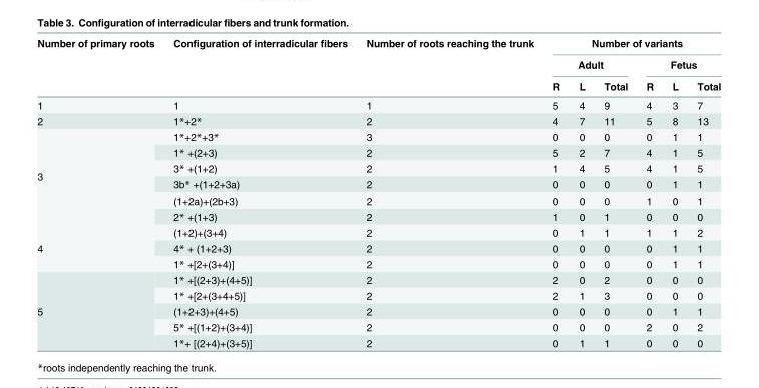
<table><thead><tr><td rowspan="3">Number of primary roots</td><td rowspan="3">Configuration of interradicular fibers</td><td rowspan="3">Number of roots reaching the trunk</td><td colspan="6">Number of variants</td></tr><tr><td colspan="3">Adult</td><td colspan="3">Fetus</td></tr><tr><td>R</td><td>L</td><td>Total</td><td>R</td><td>L</td><td>Total</td></tr></thead><tbody><tr><td>1</td><td>1</td><td>1</td><td>5</td><td>4</td><td>9</td><td>4</td><td>3</td><td>7</td></tr><tr><td>2</td><td>1*+2*</td><td>2</td><td>4</td><td>7</td><td>11</td><td>5</td><td>8</td><td>13</td></tr><tr><td rowspan="6">3</td><td>1*+2*+3*</td><td>3</td><td>0</td><td>0</td><td>0</td><td>0</td><td>1</td><td>1</td></tr><tr><td>1* +(2+3)</td><td>2</td><td>5</td><td>2</td><td>7</td><td>4</td><td>1</td><td>5</td></tr><tr><td>3* +(1+2)</td><td>2</td><td>1</td><td>4</td><td>5</td><td>4</td><td>1</td><td>5</td></tr><tr><td>3b* +(1+2+3a)</td><td>2</td><td>0</td><td>0</td><td>0</td><td>0</td><td>1</td><td>1</td></tr><tr><td>(1+2a)+(2b+3)</td><td>2</td><td>0</td><td>0</td><td>0</td><td>1</td><td>0</td><td>1</td></tr><tr><td>2* +(1+3)</td><td>2</td><td>1</td><td>0</td><td>1</td><td>0</td><td>0</td><td>0</td></tr><tr><td rowspan="3">4</td><td>(1+2)+(3+4)</td><td>2</td><td>0</td><td>1</td><td>1</td><td>1</td><td>1</td><td>2</td></tr><tr><td>4* + (1+2+3)</td><td>2</td><td>0</td><td>0</td><td>0</td><td>0</td><td>1</td><td>1</td></tr><tr><td>1* +[2+(3+4)]</td><td>2</td><td>0</td><td>0</td><td>0</td><td>0</td><td>1</td><td>1</td></tr><tr><td rowspan="5">5</td><td>1* +[(2+3)+(4+5)]</td><td>2</td><td>2</td><td>0</td><td>2</td><td>0</td><td>0</td><td>0</td></tr><tr><td>1* +[2+(3+4+5)]</td><td>2</td><td>2</td><td>1</td><td>3</td><td>0</td><td>0</td><td>0</td></tr><tr><td>(1+2+3)+(4+5)</td><td>2</td><td>0</td><td>0</td><td>0</td><td>0</td><td>1</td><td>1</td></tr><tr><td>5* +[(1+2)+(3+4)]</td><td>2</td><td>0</td><td>0</td><td>0</td><td>2</td><td>0</td><td>2</td></tr><tr><td>1*+ [(2+4)+(3+5)]</td><td>2</td><td>0</td><td>1</td><td>1</td><td>0</td><td>0</td><td>0</td></tr></tbody></table>